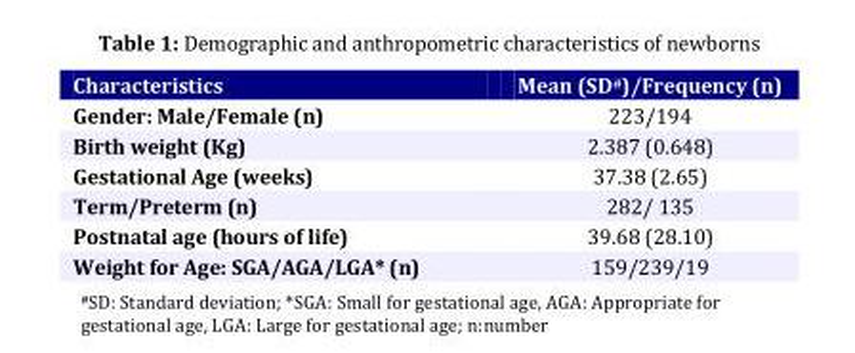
<table><thead><tr><td>Characteristics</td><td>Mean (SD#)/Frequency (n)</td></tr></thead><tbody><tr><td>Gender: Male/Female (n)</td><td>223/194</td></tr><tr><td>Birth weight (Kg)</td><td>2.387 (0.648)</td></tr><tr><td>Gestational Age (weeks)</td><td>37.38 (2.65)</td></tr><tr><td>Term/Preterm (n)</td><td>282/ 135</td></tr><tr><td>Postnatal age (hours of life)</td><td>39.68 (28.10)</td></tr><tr><td>Weight for Age: SGA/AGA/LGA* (n)</td><td>159/239/19</td></tr></tbody></table>